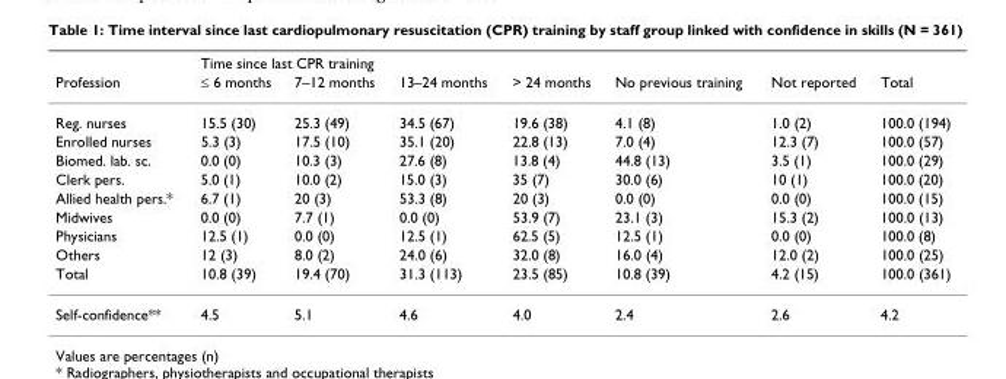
<table><thead><tr><td rowspan="2">Profession</td><td colspan="7">Time since last CPR training</td></tr><tr><td>≤ 6 months</td><td>7–12 months</td><td>13–24 months</td><td>&gt; 24 months</td><td>No previous training</td><td>Not reported</td><td>Total</td></tr></thead><tbody><tr><td>Reg. nurses</td><td>15.5 (30)</td><td>25.3 (49)</td><td>34.5 (67)</td><td>19.6 (38)</td><td>4.1 (8)</td><td>1.0 (2)</td><td>100.0 (194)</td></tr><tr><td>Enrolled nurses</td><td>5.3 (3)</td><td>17.5 (10)</td><td>35.1 (20)</td><td>22.8 (13)</td><td>7.0 (4)</td><td>12.3 (7)</td><td>100.0 (57)</td></tr><tr><td>Biomed. lab. sc.</td><td>0.0 (0)</td><td>10.3 (3)</td><td>27.6 (8)</td><td>13.8 (4)</td><td>44.8 (13)</td><td>3.5 (1)</td><td>100.0 (29)</td></tr><tr><td>Clerk pers.</td><td>5.0 (1)</td><td>10.0 (2)</td><td>15.0 (3)</td><td>35 (7)</td><td>30.0 (6)</td><td>10 (1)</td><td>100.0 (20)</td></tr><tr><td>Allied health pers.*</td><td>6.7 (1)</td><td>20 (3)</td><td>53.3 (8)</td><td>20 (3)</td><td>0.0 (0)</td><td>0.0 (0)</td><td>100.0 (15)</td></tr><tr><td>Midwives</td><td>0.0 (0)</td><td>7.7 (1)</td><td>0.0 (0)</td><td>53.9 (7)</td><td>23.1 (3)</td><td>15.3 (2)</td><td>100.0 (13)</td></tr><tr><td>Physicians</td><td>12.5 (1)</td><td>0.0 (0)</td><td>12.5 (1)</td><td>62.5 (5)</td><td>12.5 (1)</td><td>0.0 (0)</td><td>100.0 (8)</td></tr><tr><td>Others</td><td>12 (3)</td><td>8.0 (2)</td><td>24.0 (6)</td><td>32.0 (8)</td><td>16.0 (4)</td><td>12.0 (2)</td><td>100.0 (25)</td></tr><tr><td>Total</td><td>10.8 (39)</td><td>19.4 (70)</td><td>31.3 (113)</td><td>23.5 (85)</td><td>10.8 (39)</td><td>4.2 (15)</td><td>100.0 (361)</td></tr><tr><td>Self-confidence**</td><td>4.5</td><td>5.1</td><td>4.6</td><td>4.0</td><td>2.4</td><td>2.6</td><td>4.2</td></tr></tbody></table>